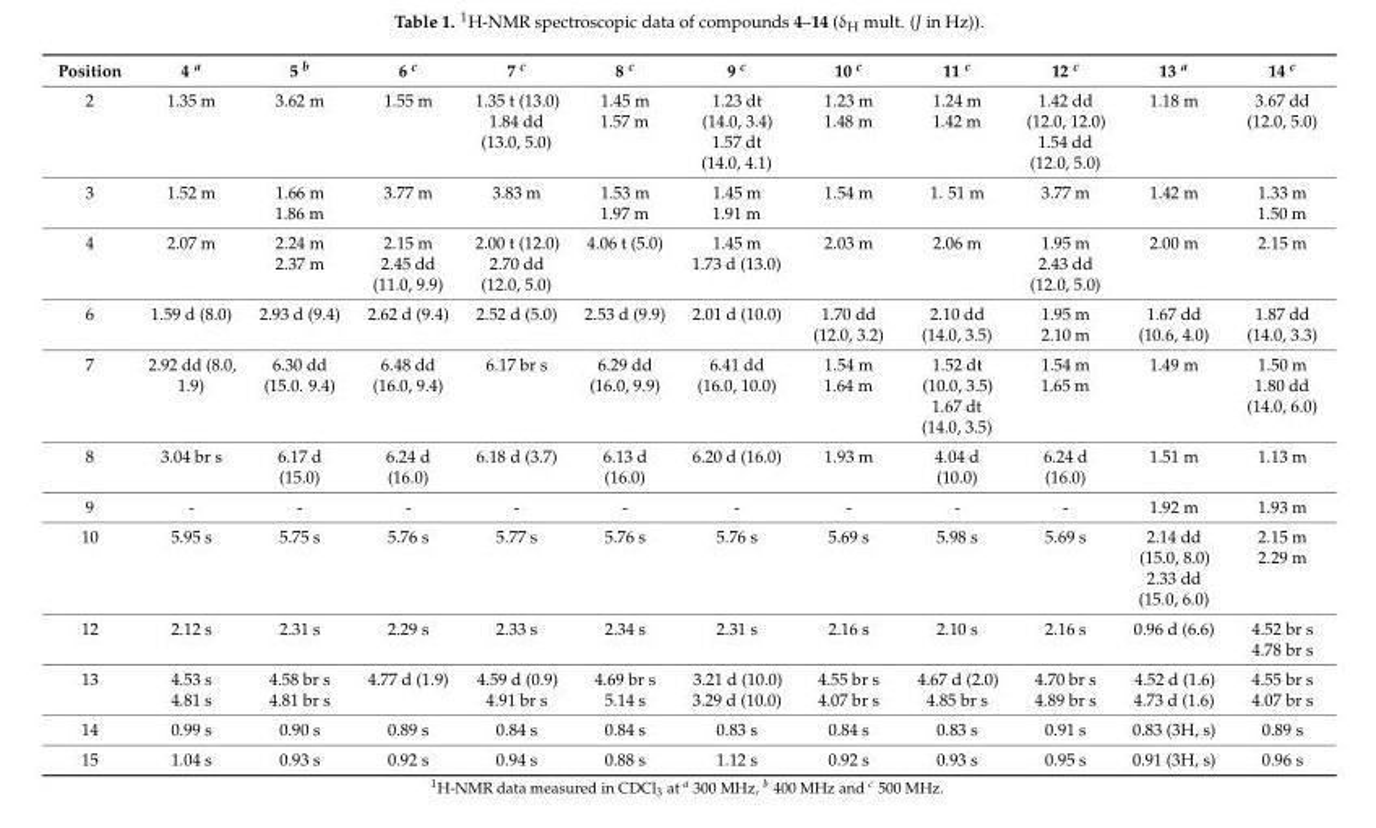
<table><thead><tr><td>Position</td><td>4 <sup>a</sup></td><td>5 <sup>b</sup></td><td>6 <sup>c</sup></td><td>7 <sup>c</sup></td><td>8 <sup>c</sup></td><td>9 <sup>c</sup></td><td>10 <sup>c</sup></td><td>11 <sup>c</sup></td><td>12 <sup>c</sup></td><td>13 <sup>a</sup></td><td>14 <sup>c</sup></td></tr></thead><tbody><tr><td>2</td><td>1.35 m</td><td>3.62 m</td><td>1.55 m</td><td>1.35 t (13.0) 1.84 dd (13.0, 5.0)</td><td>1.45 m 1.57 m</td><td>1.23 dt (14.0, 3.4) 1.57 dt (14.0, 4.1)</td><td>1.23 m 1.48 m</td><td>1.24 m 1.42 m</td><td>1.42 dd (12.0, 12.0) 1.54 dd (12.0, 5.0)</td><td>1.18 m</td><td>3.67 dd (12.0, 5.0)</td></tr><tr><td>3</td><td>1.52 m</td><td>1.66 m 1.86 m</td><td>3.77 m</td><td>3.83 m</td><td>1.53 m 1.97 m</td><td>1.45 m 1.91 m</td><td>1.54 m</td><td>1. 51 m</td><td>3.77 m</td><td>1.42 m</td><td>1.33 m 1.50 m</td></tr><tr><td>4</td><td>2.07 m</td><td>2.24 m 2.37 m</td><td>2.15 m 2.45 dd (11.0, 9.9)</td><td>2.00 t (12.0) 2.70 dd (12.0, 5.0)</td><td>4.06 t (5.0)</td><td>1.45 m 1.73 d (13.0)</td><td>2.03 m</td><td>2.06 m</td><td>1.95 m 2.43 dd (12.0, 5.0)</td><td>2.00 m</td><td>2.15 m</td></tr><tr><td>6</td><td>1.59 d (8.0)</td><td>2.93 d (9.4)</td><td>2.62 d (9.4)</td><td>2.52 d (5.0)</td><td>2.53 d (9.9)</td><td>2.01 d (10.0)</td><td>1.70 dd (12.0, 3.2)</td><td>2.10 dd (14.0, 3.5)</td><td>1.95 m 2.10 m</td><td>1.67 dd (10.6, 4.0)</td><td>1.87 dd (14.0, 3.3)</td></tr><tr><td>7</td><td>2.92 dd (8.0, 1.9)</td><td>6.30 dd (15.0. 9.4)</td><td>6.48 dd (16.0, 9.4)</td><td>6.17 br s</td><td>6.29 dd (16.0, 9.9)</td><td>6.41 dd (16.0, 10.0)</td><td>1.54 m 1.64 m</td><td>1.52 dt (10.0, 3.5) 1.67 dt (14.0, 3.5)</td><td>1.54 m 1.65 m</td><td>1.49 m</td><td>1.50 m 1.80 dd (14.0, 6.0)</td></tr><tr><td>8</td><td>3.04 br s</td><td>6.17 d (15.0)</td><td>6.24 d (16.0)</td><td>6.18 d (3.7)</td><td>6.13 d (16.0)</td><td>6.20 d (16.0)</td><td>1.93 m</td><td>4.04 d (10.0)</td><td>6.24 d (16.0)</td><td>1.51 m</td><td>1.13 m</td></tr><tr><td>9</td><td>-</td><td>-</td><td>-</td><td>-</td><td>-</td><td>-</td><td>-</td><td>-</td><td>-</td><td>1.92 m</td><td>1.93 m</td></tr><tr><td>10</td><td>5.95 s</td><td>5.75 s</td><td>5.76 s</td><td>5.77 s</td><td>5.76 s</td><td>5.76 s</td><td>5.69 s</td><td>5.98 s</td><td>5.69 s</td><td>2.14 dd (15.0, 8.0) 2.33 dd (15.0, 6.0)</td><td>2.15 m 2.29 m</td></tr><tr><td>12</td><td>2.12 s</td><td>2.31 s</td><td>2.29 s</td><td>2.33 s</td><td>2.34 s</td><td>2.31 s</td><td>2.16 s</td><td>2.10 s</td><td>2.16 s</td><td>0.96 d (6.6)</td><td>4.52 br s 4.78 br s</td></tr><tr><td>13</td><td>4.53 s 4.81 s</td><td>4.58 br s 4.81 br s</td><td>4.77 d (1.9)</td><td>4.59 d (0.9) 4.91 br s</td><td>4.69 br s 5.14 s</td><td>3.21 d (10.0) 3.29 d (10.0)</td><td>4.55 br s 4.07 br s</td><td>4.67 d (2.0) 4.85 br s</td><td>4.70 br s 4.89 br s</td><td>4.52 d (1.6) 4.73 d (1.6)</td><td>4.55 br s 4.07 br s</td></tr><tr><td>14</td><td>0.99 s</td><td>0.90 s</td><td>0.89 s</td><td>0.84 s</td><td>0.84 s</td><td>0.83 s</td><td>0.84 s</td><td>0.83 s</td><td>0.91 s</td><td>0.83 (3H, s)</td><td>0.89 s</td></tr><tr><td>15</td><td>1.04 s</td><td>0.93 s</td><td>0.92 s</td><td>0.94 s</td><td>0.88 s</td><td>1.12 s</td><td>0.92 s</td><td>0.93 s</td><td>0.95 s</td><td>0.91 (3H, s)</td><td>0.96 s</td></tr></tbody></table>